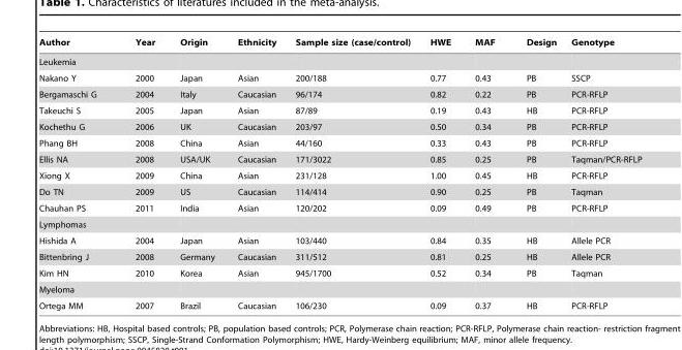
<table><thead><tr><td>Author</td><td>Year</td><td>Origin</td><td>Ethnicity</td><td>Sample size (case/control)</td><td>HWE</td><td>MAF</td><td>Design</td><td>Genotype</td></tr></thead><tbody><tr><td colspan="9">Leukemia</td></tr><tr><td>Nakano Y</td><td>2000</td><td>Japan</td><td>Asian</td><td>200/188</td><td>0.77</td><td>0.43</td><td>PB</td><td>SSCP</td></tr><tr><td>Bergamaschi G</td><td>2004</td><td>Italy</td><td>Caucasian</td><td>96/174</td><td>0.82</td><td>0.22</td><td>PB</td><td>PCR-RFLP</td></tr><tr><td>Takeuchi S</td><td>2005</td><td>Japan</td><td>Asian</td><td>87/89</td><td>0.19</td><td>0.43</td><td>HB</td><td>PCR-RFLP</td></tr><tr><td>Kochethu G</td><td>2006</td><td>UK</td><td>Caucasian</td><td>203/97</td><td>0.50</td><td>0.34</td><td>PB</td><td>PCR-RFLP</td></tr><tr><td>Phang BH</td><td>2008</td><td>China</td><td>Asian</td><td>44/160</td><td>0.33</td><td>0.43</td><td>PB</td><td>PCR-RFLP</td></tr><tr><td>Ellis NA</td><td>2008</td><td>USA/UK</td><td>Caucasian</td><td>171/3022</td><td>0.85</td><td>0.25</td><td>PB</td><td>Taqman/PCR-RFLP</td></tr><tr><td>Xiong X</td><td>2009</td><td>China</td><td>Asian</td><td>231/128</td><td>1.00</td><td>0.45</td><td>HB</td><td>PCR-RFLP</td></tr><tr><td>Do TN</td><td>2009</td><td>US</td><td>Caucasian</td><td>114/414</td><td>0.90</td><td>0.25</td><td>PB</td><td>Taqman</td></tr><tr><td>Chauhan PS</td><td>2011</td><td>India</td><td>Asian</td><td>120/202</td><td>0.09</td><td>0.49</td><td>PB</td><td>PCR-RFLP</td></tr><tr><td colspan="9">Lymphomas</td></tr><tr><td>Hishida A</td><td>2004</td><td>Japan</td><td>Asian</td><td>103/440</td><td>0.84</td><td>0.35</td><td>HB</td><td>Allele PCR</td></tr><tr><td>Bittenbring J</td><td>2008</td><td>Germany</td><td>Caucasian</td><td>311/512</td><td>0.81</td><td>0.25</td><td>HB</td><td>Allele PCR</td></tr><tr><td>Kim HN</td><td>2010</td><td>Korea</td><td>Asian</td><td>945/1700</td><td>0.52</td><td>0.34</td><td>PB</td><td>Taqman</td></tr><tr><td colspan="9">Myeloma</td></tr><tr><td>Ortega MM</td><td>2007</td><td>Brazil</td><td>Caucasian</td><td>106/230</td><td>0.09</td><td>0.37</td><td>HB</td><td>PCR-RFLP</td></tr></tbody></table>